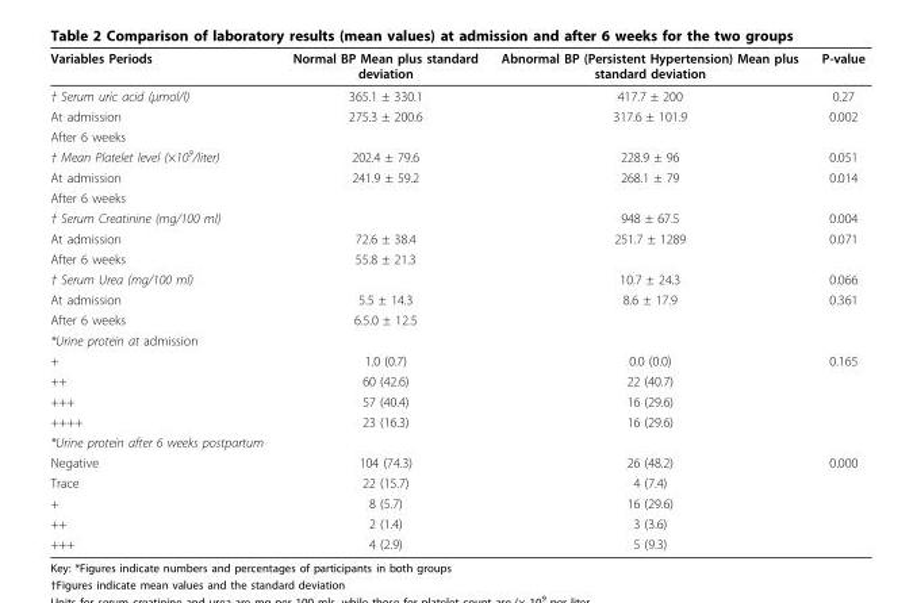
<table><thead><tr><td>Variables Periods</td><td>Normal BP Mean plus standard deviation</td><td>Abnormal BP (Persistent Hypertension) Mean plus standard deviation</td><td>P-value</td></tr></thead><tbody><tr><td>† Serum uric acid (μmol/l)</td><td>365.1 ± 330.1</td><td>417.7 ± 200</td><td>0.27</td></tr><tr><td>At admission</td><td>275.3 ± 200.6</td><td>317.6 ± 101.9</td><td>0.002</td></tr><tr><td colspan="4">After 6 weeks</td></tr><tr><td>† Mean Platelet level (×10<sup>9</sup>/liter)</td><td>202.4 ± 79.6</td><td>228.9 ± 96</td><td>0.051</td></tr><tr><td>At admission</td><td>241.9 ± 59.2</td><td>268.1 ± 79</td><td>0.014</td></tr><tr><td colspan="4">After 6 weeks</td></tr><tr><td>† Serum Creatinine (mg/100 ml)</td><td></td><td>948 ± 67.5</td><td>0.004</td></tr><tr><td>At admission</td><td>72.6 ± 38.4</td><td>251.7 ± 1289</td><td>0.071</td></tr><tr><td>After 6 weeks</td><td>55.8 ± 21.3</td><td></td><td></td></tr><tr><td>† Serum Urea (mg/100 ml)</td><td></td><td>10.7 ± 24.3</td><td>0.066</td></tr><tr><td>At admission</td><td>5.5 ± 14.3</td><td>8.6 ± 17.9</td><td>0.361</td></tr><tr><td>After 6 weeks</td><td>6.5.0 ± 12.5</td><td></td><td></td></tr><tr><td colspan="4">*Urine protein at admission</td></tr><tr><td>+</td><td>1.0 (0.7)</td><td>0.0 (0.0)</td><td>0.165</td></tr><tr><td>++</td><td>60 (42.6)</td><td>22 (40.7)</td><td></td></tr><tr><td>+++</td><td>57 (40.4)</td><td>16 (29.6)</td><td></td></tr><tr><td>++++</td><td>23 (16.3)</td><td>16 (29.6)</td><td></td></tr><tr><td colspan="4">*Urine protein after 6 weeks postpartum</td></tr><tr><td>Negative</td><td>104 (74.3)</td><td>26 (48.2)</td><td>0.000</td></tr><tr><td>Trace</td><td>22 (15.7)</td><td>4 (7.4)</td><td></td></tr><tr><td>+</td><td>8 (5.7)</td><td>16 (29.6)</td><td></td></tr><tr><td>++</td><td>2 (1.4)</td><td>3 (3.6)</td><td></td></tr><tr><td>+++</td><td>4 (2.9)</td><td>5 (9.3)</td><td></td></tr></tbody></table>